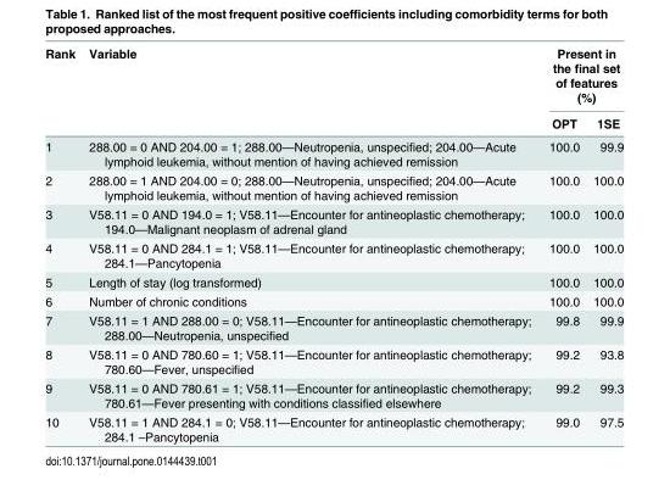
<table><thead><tr><td rowspan="2">Rank</td><td rowspan="2">Variable</td><td colspan="2">Present in the final set of features (%)</td></tr><tr><td>OPT</td><td>1SE</td></tr></thead><tbody><tr><td>1</td><td>288.00 = 0 AND 204.00 = 1; 288.00—Neutropenia, unspecified; 204.00—Acute lymphoid leukemia, without mention of having achieved remission</td><td>100.0</td><td>99.9</td></tr><tr><td>2</td><td>288.00 = 1 AND 204.00 = 0; 288.00—Neutropenia, unspecified; 204.00—Acute lymphoid leukemia, without mention of having achieved remission</td><td>100.0</td><td>100.0</td></tr><tr><td>3</td><td>V58.11 = 0 AND 194.0 = 1; V58.11—Encounter for antineoplastic chemotherapy; 194.0—Malignant neoplasm of adrenal gland</td><td>100.0</td><td>100.0</td></tr><tr><td>4</td><td>V58.11 = 0 AND 284.1 = 1; V58.11—Encounter for antineoplastic chemotherapy; 284.1—Pancytopenia</td><td>100.0</td><td>100.0</td></tr><tr><td>5</td><td>Length of stay (log transformed)</td><td>100.0</td><td>100.0</td></tr><tr><td>6</td><td>Number of chronic conditions</td><td>100.0</td><td>100.0</td></tr><tr><td>7</td><td>V58.11 = 1 AND 288.00 = 0; V58.11—Encounter for antineoplastic chemotherapy; 288.00—Neutropenia, unspecified</td><td>99.8</td><td>99.9</td></tr><tr><td>8</td><td>V58.11 = 0 AND 780.60 = 1; V58.11—Encounter for antineoplastic chemotherapy; 780.60—Fever, unspecified</td><td>99.2</td><td>93.8</td></tr><tr><td>9</td><td>V58.11 = 0 AND 780.61 = 1; V58.11—Encounter for antineoplastic chemotherapy; 780.61—Fever presenting with conditions classified elsewhere</td><td>99.2</td><td>99.3</td></tr><tr><td>10</td><td>V58.11 = 1 AND 284.1 = 0; V58.11—Encounter for antineoplastic chemotherapy; 284.1 –Pancytopenia</td><td>99.0</td><td>97.5</td></tr></tbody></table>